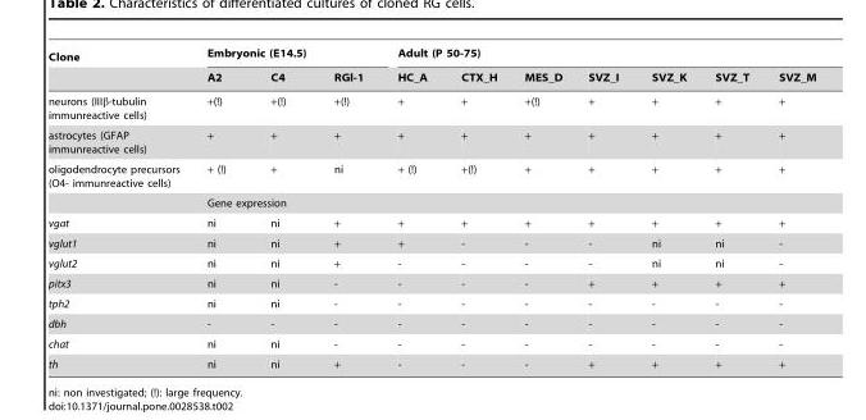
<table><thead><tr><td rowspan="2">Clone</td><td colspan="3">Embryonic (E14.5)</td><td colspan="7">Adult (P 50-75)</td></tr><tr><td>A2</td><td>C4</td><td>RGl-1</td><td>HC_A</td><td>CTX_H</td><td>MES_D</td><td>SVZ_I</td><td>SVZ_K</td><td>SVZ_T</td><td>SVZ_M</td></tr></thead><tbody><tr><td>neurons (IIIβ-tubulin immunreactive cells)</td><td>+(!)</td><td>+(!)</td><td>+(!)</td><td>+</td><td>+</td><td>+(!)</td><td>+</td><td>+</td><td>+</td><td>+</td></tr><tr><td>astrocytes (GFAP immunreactive cells)</td><td>+</td><td>+</td><td>+</td><td>+</td><td>+</td><td>+</td><td>+</td><td>+</td><td>+</td><td>+</td></tr><tr><td rowspan="2">oligodendrocyte precursors (O4- immunreactive cells)</td><td>+ (!)</td><td>+</td><td>ni</td><td>+ (!)</td><td>+(!)</td><td>+</td><td>+</td><td>+</td><td>+</td><td>+</td></tr><tr><td colspan="10">Gene expression</td></tr><tr><td>vgat</td><td>ni</td><td>ni</td><td>+</td><td>+</td><td>+</td><td>+</td><td>+</td><td>+</td><td>+</td><td>+</td></tr><tr><td>vglut1</td><td>ni</td><td>ni</td><td>+</td><td>+</td><td>-</td><td>-</td><td>-</td><td>ni</td><td>ni</td><td>-</td></tr><tr><td>vglut2</td><td>ni</td><td>ni</td><td>+</td><td>-</td><td>-</td><td>-</td><td>-</td><td>ni</td><td>ni</td><td>-</td></tr><tr><td>pitx3</td><td>ni</td><td>ni</td><td>-</td><td>-</td><td>-</td><td>-</td><td>+</td><td>+</td><td>+</td><td>+</td></tr><tr><td>tph2</td><td>ni</td><td>ni</td><td>-</td><td>-</td><td>-</td><td>-</td><td>-</td><td>-</td><td>-</td><td>-</td></tr><tr><td>dbh</td><td>-</td><td>-</td><td>-</td><td>-</td><td>-</td><td>-</td><td>-</td><td>-</td><td>-</td><td>-</td></tr><tr><td>chat</td><td>ni</td><td>ni</td><td>-</td><td>-</td><td>-</td><td>-</td><td>-</td><td>-</td><td>-</td><td>-</td></tr><tr><td>th</td><td>ni</td><td>ni</td><td>+</td><td>-</td><td>-</td><td>-</td><td>+</td><td>+</td><td>+</td><td>+</td></tr></tbody></table>